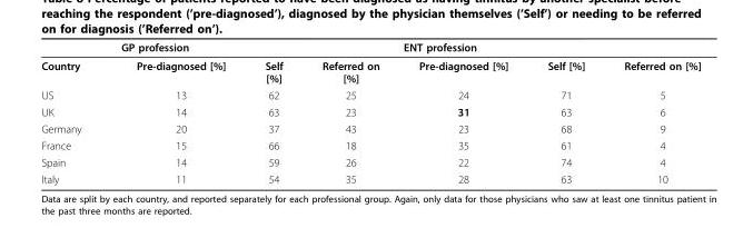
<table><thead><tr><td rowspan="2">Country</td><td colspan="3">GP profession</td><td colspan="3">ENT profession</td></tr><tr><td>Pre-diagnosed [%]</td><td>Self [%]</td><td>Referred on [%]</td><td>Pre-diagnosed [%]</td><td>Self [%]</td><td>Referred on [%]</td></tr></thead><tbody><tr><td>US</td><td>13</td><td>62</td><td>25</td><td>24</td><td>71</td><td>5</td></tr><tr><td>UK</td><td>14</td><td>63</td><td>23</td><td>31</td><td>63</td><td>6</td></tr><tr><td>Germany</td><td>20</td><td>37</td><td>43</td><td>23</td><td>68</td><td>9</td></tr><tr><td>France</td><td>15</td><td>66</td><td>18</td><td>35</td><td>61</td><td>4</td></tr><tr><td>Spain</td><td>14</td><td>59</td><td>26</td><td>22</td><td>74</td><td>4</td></tr><tr><td>Italy</td><td>11</td><td>54</td><td>35</td><td>28</td><td>63</td><td>10</td></tr></tbody></table>